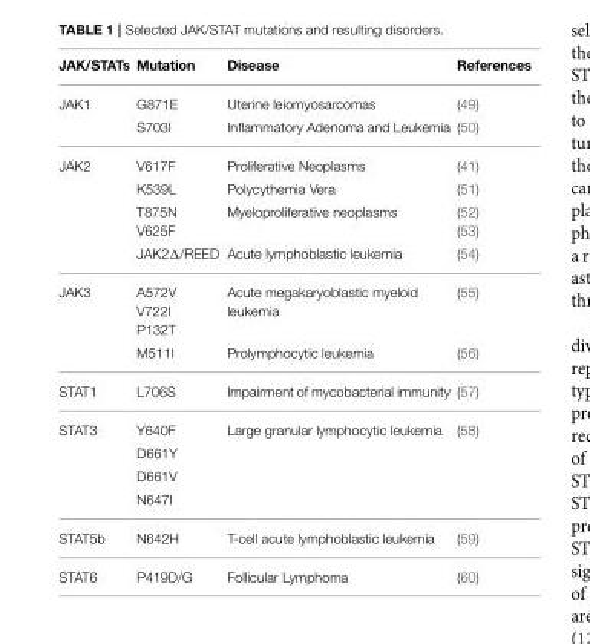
<table><thead><tr><td>JAK/STATs</td><td>Mutation</td><td>Disease</td><td>References</td></tr></thead><tbody><tr><td rowspan="2">JAK1</td><td>G871E</td><td>Uterine leiomyosarcomas</td><td>(49)</td></tr><tr><td>S703I</td><td>Inflammatory Adenoma and Leukemia</td><td>(50)</td></tr><tr><td rowspan="4">JAK2</td><td>V617F</td><td>Proliferative Neoplasms</td><td>(41)</td></tr><tr><td>K539L</td><td>Polycythemia Vera</td><td>(51)</td></tr><tr><td>T875N V625F</td><td>Myeloproliferative neoplasms</td><td>(52) (53)</td></tr><tr><td>JAK2Δ/REED</td><td>Acute lymphoblastic leukemia</td><td>(54)</td></tr><tr><td rowspan="2">JAK3</td><td>A572V V722I P132T</td><td>Acute megakaryoblastic myeloid leukemia</td><td>(55)</td></tr><tr><td>M511I</td><td>Prolymphocytic leukemia</td><td>(56)</td></tr><tr><td>STAT1</td><td>L706S</td><td>Impairment of mycobacterial immunity</td><td>(57)</td></tr><tr><td rowspan="4">STAT3</td><td>Y640F</td><td>Large granular lymphocytic leukemia</td><td>(58)</td></tr><tr><td>D661Y</td><td></td><td></td></tr><tr><td>D661V</td><td></td><td></td></tr><tr><td>N647I</td><td></td><td></td></tr><tr><td>STAT5b</td><td>N642H</td><td>T-cell acute lymphoblastic leukemia</td><td>(59)</td></tr><tr><td>STAT6</td><td>P419D/G</td><td>Follicular Lymphoma</td><td>(60)</td></tr></tbody></table>